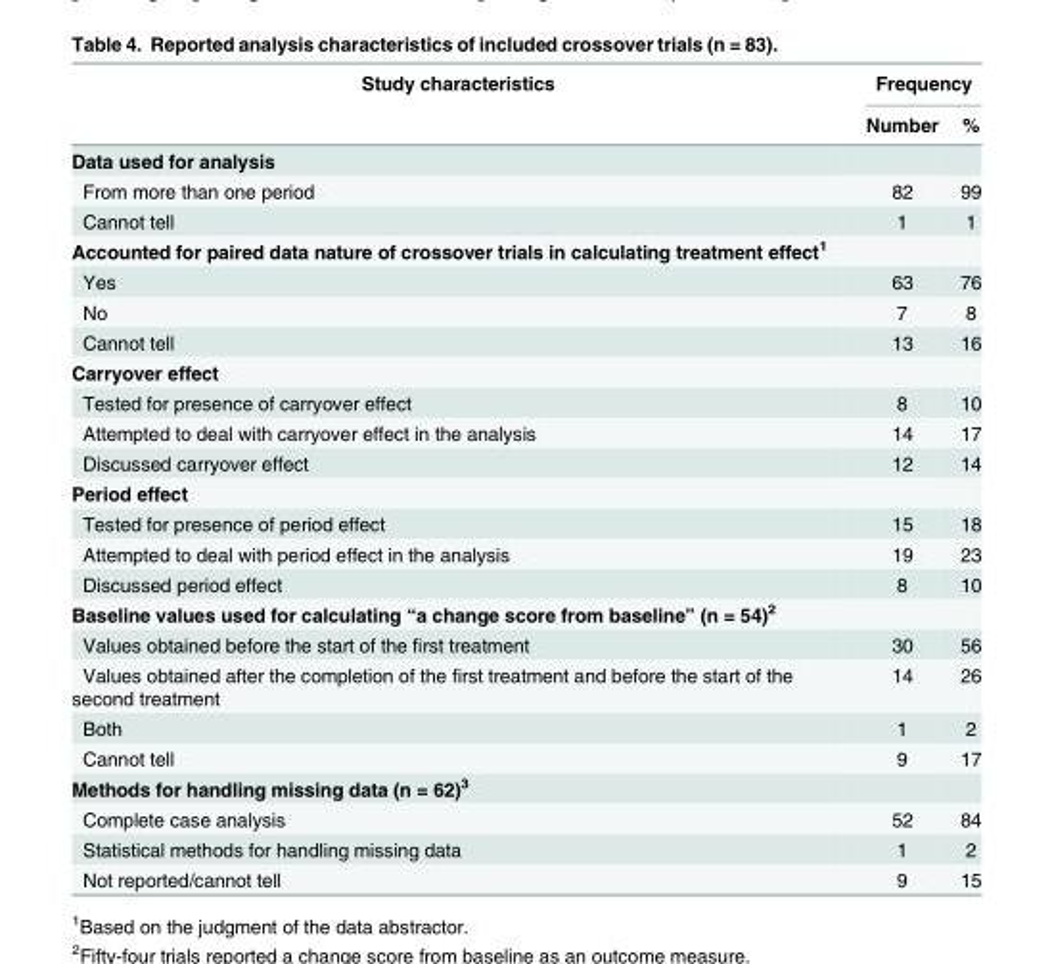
<table><thead><tr><td rowspan="2">Study characteristics</td><td colspan="2">Frequency</td></tr><tr><td>Number</td><td>%</td></tr></thead><tbody><tr><td colspan="3">Data used for analysis</td></tr><tr><td>From more than one period</td><td>82</td><td>99</td></tr><tr><td>Cannot tell</td><td>1</td><td>1</td></tr><tr><td colspan="3">Accounted for paired data nature of crossover trials in calculating treatment effect<sup>1</sup></td></tr><tr><td>Yes</td><td>63</td><td>76</td></tr><tr><td>No</td><td>7</td><td>8</td></tr><tr><td>Cannot tell</td><td>13</td><td>16</td></tr><tr><td colspan="3">Carryover effect</td></tr><tr><td>Tested for presence of carryover effect</td><td>8</td><td>10</td></tr><tr><td>Attempted to deal with carryover effect in the analysis</td><td>14</td><td>17</td></tr><tr><td>Discussed carryover effect</td><td>12</td><td>14</td></tr><tr><td colspan="3">Period effect</td></tr><tr><td>Tested for presence of period effect</td><td>15</td><td>18</td></tr><tr><td>Attempted to deal with period effect in the analysis</td><td>19</td><td>23</td></tr><tr><td>Discussed period effect</td><td>8</td><td>10</td></tr><tr><td colspan="3">Baseline values used for calculating “a change score from baseline” (n = 54)<sup>2</sup></td></tr><tr><td>Values obtained before the start of the first treatment</td><td>30</td><td>56</td></tr><tr><td>Values obtained after the completion of the first treatment and before the start of the second treatment</td><td>14</td><td>26</td></tr><tr><td>Both</td><td>1</td><td>2</td></tr><tr><td>Cannot tell</td><td>9</td><td>17</td></tr><tr><td colspan="3">Methods for handling missing data (n = 62)<sup>3</sup></td></tr><tr><td>Complete case analysis</td><td>52</td><td>84</td></tr><tr><td>Statistical methods for handling missing data</td><td>1</td><td>2</td></tr><tr><td>Not reported/cannot tell</td><td>9</td><td>15</td></tr></tbody></table>